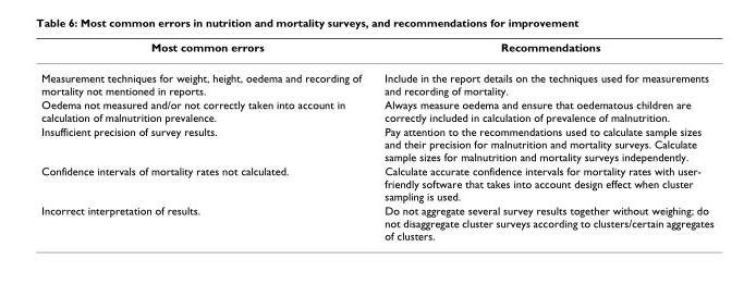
<table><thead><tr><td>Most common errors</td><td>Recommendations</td></tr></thead><tbody><tr><td>Measurement techniques for weight, height, oedema and recording of mortality not mentioned in reports.</td><td>Include in the report details on the techniques used for measurements and recording of mortality.</td></tr><tr><td>Oedema not measured and/or not correctly taken into account in calculation of malnutrition prevalence.</td><td>Always measure oedema and ensure that oedematous children are correctly included in calculation of prevalence of malnutrition.</td></tr><tr><td>Insufficient precision of survey results.</td><td>Pay attention to the recommendations used to calculate sample sizes and their precision for malnutrition and mortality surveys. Calculate sample sizes for malnutrition and mortality surveys independently.</td></tr><tr><td>Confidence intervals of mortality rates not calculated.</td><td>Calculate accurate confidence intervals for mortality rates with user- friendly software that takes into account design effect when cluster sampling is used.</td></tr><tr><td>Incorrect interpretation of results.</td><td>Do not aggregate several survey results together without weighing; do not disaggregate cluster surveys according to clusters/certain aggregates of clusters.</td></tr></tbody></table>